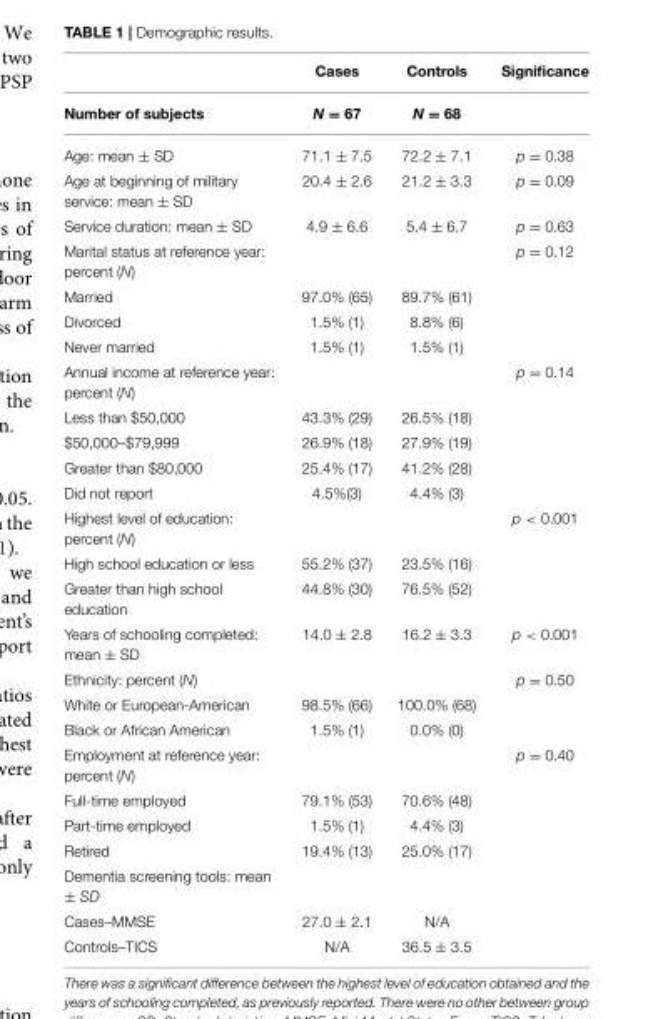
<table><thead><tr><td></td><td>Cases</td><td>Controls</td><td>Significance</td></tr></thead><tbody><tr><td>Number of subjects</td><td>N = 67</td><td>N = 68</td><td></td></tr><tr><td>Age: mean ± SD</td><td>71.1 ± 7.5</td><td>72.2 ± 7.1</td><td>p = 0.38</td></tr><tr><td>Age at beginning of military service: mean ± SD</td><td>20.4 ± 2.6</td><td>21.2 ± 3.3</td><td>p = 0.09</td></tr><tr><td>Service duration: mean ± SD</td><td>4.9 ± 6.6</td><td>5.4 ± 6.7</td><td>p = 0.63</td></tr><tr><td>Marital status at reference year: percent (N)</td><td></td><td></td><td>p = 0.12</td></tr><tr><td>Married</td><td>97.0% (65)</td><td>89.7% (61)</td><td></td></tr><tr><td>Divorced</td><td>1.5% (1)</td><td>8.8% (6)</td><td></td></tr><tr><td>Never married</td><td>1.5% (1)</td><td>1.5% (1)</td><td></td></tr><tr><td>Annual income at reference year: percent (N)</td><td></td><td></td><td>p = 0.14</td></tr><tr><td>Less than $50,000</td><td>43.3% (29)</td><td>26.5% (18)</td><td></td></tr><tr><td>$50,000–$79,999</td><td>26.9% (18)</td><td>27.9% (19)</td><td></td></tr><tr><td>Greater than $80,000</td><td>25.4% (17)</td><td>41.2% (28)</td><td></td></tr><tr><td>Did not report</td><td>4.5%(3)</td><td>4.4% (3)</td><td></td></tr><tr><td>Highest level of education: percent (N)</td><td></td><td></td><td>p &lt; 0.001</td></tr><tr><td>High school education or less</td><td>55.2% (37)</td><td>23.5% (16)</td><td></td></tr><tr><td>Greater than high school education</td><td>44.8% (30)</td><td>76.5% (52)</td><td></td></tr><tr><td>Years of schooling completed: mean ± SD</td><td>14.0 ± 2.8</td><td>16.2 ± 3.3</td><td>p &lt; 0.001</td></tr><tr><td>Ethnicity: percent (N)</td><td></td><td></td><td>p = 0.50</td></tr><tr><td>White or European-American</td><td>98.5% (66)</td><td>100.0% (68)</td><td></td></tr><tr><td>Black or African American</td><td>1.5% (1)</td><td>0.0% (0)</td><td></td></tr><tr><td>Employment at reference year: percent (N)</td><td></td><td></td><td>p = 0.40</td></tr><tr><td>Full-time employed</td><td>79.1% (53)</td><td>70.6% (48)</td><td></td></tr><tr><td>Part-time employed</td><td>1.5% (1)</td><td>4.4% (3)</td><td></td></tr><tr><td>Retired</td><td>19.4% (13)</td><td>25.0% (17)</td><td></td></tr><tr><td colspan="4">Dementia screening tools: mean ± SD</td></tr><tr><td>Cases–MMSE</td><td>27.0 ± 2.1</td><td>N/A</td><td></td></tr><tr><td>Controls–TICS</td><td>N/A</td><td>36.5 ± 3.5</td><td></td></tr></tbody></table>